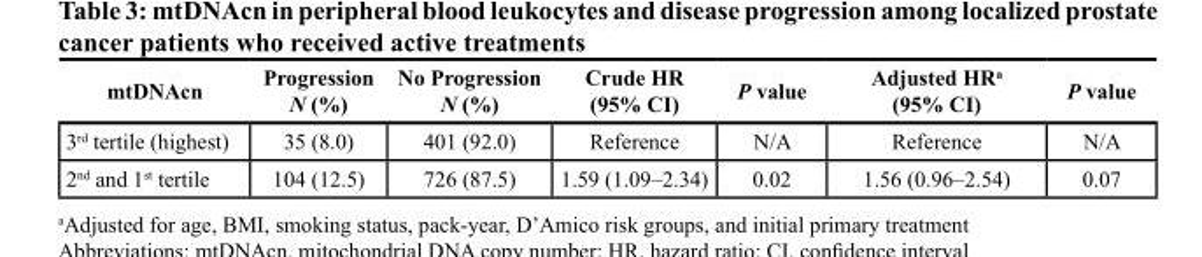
<table><thead><tr><td>mtDNAcn</td><td>Progression N (%)</td><td>No Progression N (%)</td><td>Crude HR (95% CI)</td><td>P value</td><td>Adjusted HR<sup>a</sup> (95% CI)</td><td>P value</td></tr></thead><tbody><tr><td>3<sup>rd</sup> tertile (highest)</td><td>35 (8.0)</td><td>401 (92.0)</td><td>Reference</td><td>N/A</td><td>Reference</td><td>N/A</td></tr><tr><td>2<sup>nd</sup> and 1<sup>st</sup> tertile</td><td>104 (12.5)</td><td>726 (87.5)</td><td>1.59 (1.09–2.34)</td><td>0.02</td><td>1.56 (0.96–2.54)</td><td>0.07</td></tr></tbody></table>